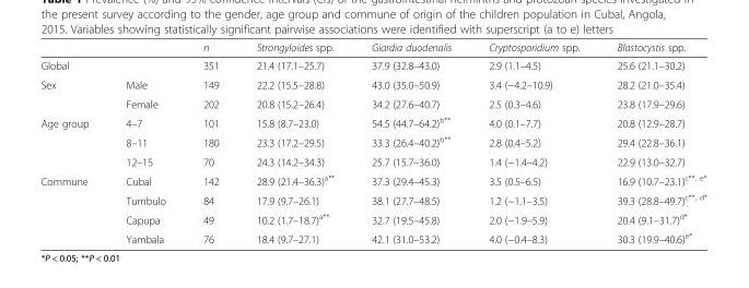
<table><thead><tr><td></td><td></td><td>n</td><td>Strongyloides spp.</td><td>Giardia duodenalis</td><td>Cryptosporidium spp.</td><td>Blastocystis spp.</td></tr></thead><tbody><tr><td>Global</td><td></td><td>351</td><td>21.4 (17.1–25.7)</td><td>37.9 (32.8–43.0)</td><td>2.9 (1.1–4.5)</td><td>25.6 (21.1–30.2)</td></tr><tr><td rowspan="2">Sex</td><td>Male</td><td>149</td><td>22.2 (15.5–28.8)</td><td>43.0 (35.0–50.9)</td><td>3.4 (−4.2–10.9)</td><td>28.2 (21.0–35.4)</td></tr><tr><td>Female</td><td>202</td><td>20.8 (15.2–26.4)</td><td>34.2 (27.6–40.7)</td><td>2.5 (0.3–4.6)</td><td>23.8 (17.9–29.6)</td></tr><tr><td rowspan="3">Age group</td><td>4–7</td><td>101</td><td>15.8 (8.7–23.0)</td><td>54.5 (44.7–64.2)<sup>b**</sup></td><td>4.0 (0.1–7.7)</td><td>20.8 (12.9–28.7)</td></tr><tr><td>8–11</td><td>180</td><td>23.3 (17.2–29.5)</td><td>33.3 (26.4–40.2)<sup>b**</sup></td><td>2.8 (0.4–5.2)</td><td>29.4 (22.8–36.1)</td></tr><tr><td>12–15</td><td>70</td><td>24.3 (14.2–34.3)</td><td>25.7 (15.7–36.0)</td><td>1.4 (−1.4–4.2)</td><td>22.9 (13.0–32.7)</td></tr><tr><td rowspan="4">Commune</td><td>Cubal</td><td>142</td><td>28.9 (21.4–36.3)<sup>a**</sup></td><td>37.3 (29.4–45.3)</td><td>3.5 (0.5–6.5)</td><td>16.9 (10.7–23.1)<sup>c**, e*</sup></td></tr><tr><td>Tumbulo</td><td>84</td><td>17.9 (9.7–26.1)</td><td>38.1 (27.7–48.5)</td><td>1.2 (−1.1–3.5)</td><td>39.3 (28.8–49.7)<sup>c**, d*</sup></td></tr><tr><td>Capupa</td><td>49</td><td>10.2 (1.7–18.7)<sup>a**</sup></td><td>32.7 (19.5–45.8)</td><td>2.0 (−1.9–5.9)</td><td>20.4 (9.1–31.7)<sup>d*</sup></td></tr><tr><td>Yambala</td><td>76</td><td>18.4 (9.7–27.1)</td><td>42.1 (31.0–53.2)</td><td>4.0 (−0.4–8.3)</td><td>30.3 (19.9–40.6)<sup>e*</sup></td></tr></tbody></table>